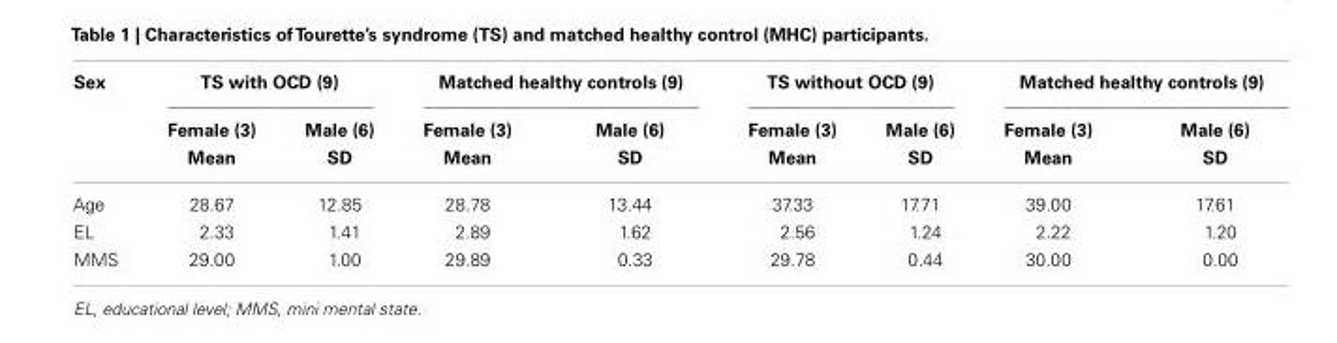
<table><thead><tr><td rowspan="3">Sex</td><td colspan="2">TS with OCD (9)</td><td colspan="2">Matched healthy controls (9)</td><td colspan="2">TS without OCD (9)</td><td colspan="2">Matched healthy controls (9)</td></tr><tr><td rowspan="2">Female (3) Mean</td><td rowspan="2">Male (6) SD</td><td rowspan="2">Female (3) Mean</td><td rowspan="2">Male (6) SD</td><td rowspan="2">Female (3) Mean</td><td rowspan="2">Male (6) SD</td><td rowspan="2">Female (3) Mean</td><td rowspan="2">Male (6) SD</td></tr><tr></tr></thead><tbody><tr><td>Age</td><td>28.67</td><td>12.85</td><td>28.78</td><td>13.44</td><td>37.33</td><td>17.71</td><td>39.00</td><td>17.61</td></tr><tr><td>EL</td><td>2.33</td><td>1.41</td><td>2.89</td><td>1.62</td><td>2.56</td><td>1.24</td><td>2.22</td><td>1.20</td></tr><tr><td>MMS</td><td>29.00</td><td>1.00</td><td>29.89</td><td>0.33</td><td>29.78</td><td>0.44</td><td>30.00</td><td>0.00</td></tr></tbody></table>